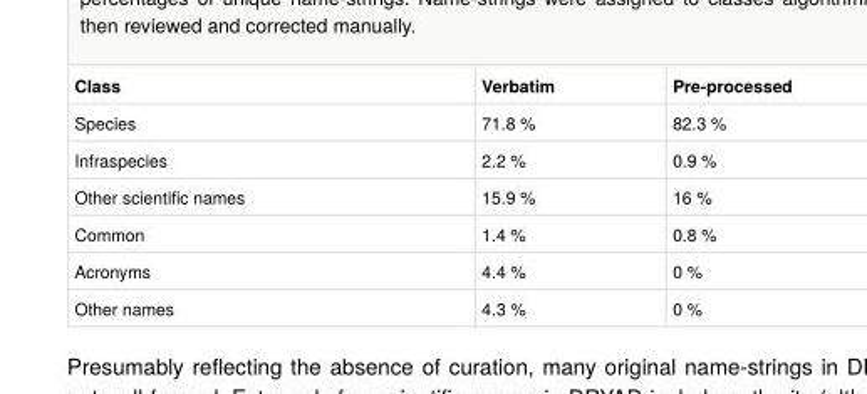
<table><tbody><tr><td>Class</td><td>Verbatim</td><td>Pre-processed</td></tr><tr><td>Species</td><td>71.8 %</td><td>82.3 %</td></tr><tr><td>Infraspecies</td><td>2.2 %</td><td>0.9 %</td></tr><tr><td>Other scientific names</td><td>15.9 %</td><td>16 %</td></tr><tr><td>Common</td><td>1.4 %</td><td>0.8 %</td></tr><tr><td>Acronyms</td><td>4.4 %</td><td>0 %</td></tr><tr><td>Other names</td><td>4.3 %</td><td>0 %</td></tr></tbody></table>